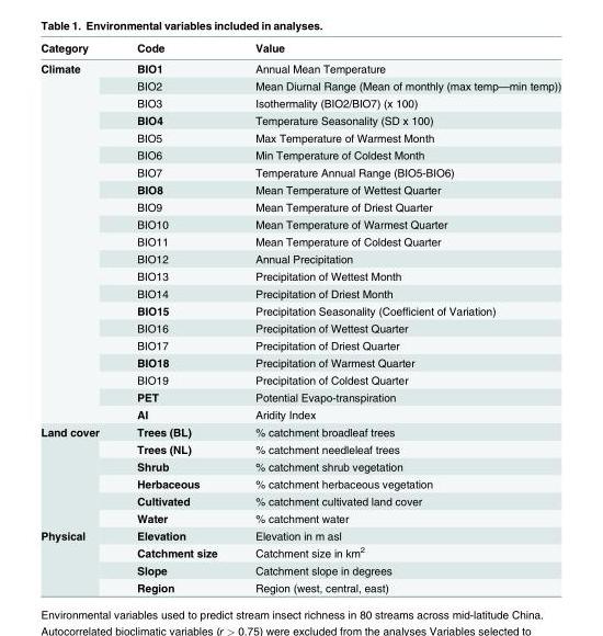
<table><thead><tr><td>Category</td><td>Code</td><td>Value</td></tr></thead><tbody><tr><td rowspan="21">Climate</td><td>BIO1</td><td>Annual Mean Temperature</td></tr><tr><td>BIO2</td><td>Mean Diurnal Range (Mean of monthly (max temp—min temp))</td></tr><tr><td>BIO3</td><td>Isothermality (BIO2/BIO7) (x 100)</td></tr><tr><td>BIO4</td><td>Temperature Seasonality (SD x 100)</td></tr><tr><td>BIO5</td><td>Max Temperature of Warmest Month</td></tr><tr><td>BIO6</td><td>Min Temperature of Coldest Month</td></tr><tr><td>BIO7</td><td>Temperature Annual Range (BIO5-BIO6)</td></tr><tr><td>BIO8</td><td>Mean Temperature of Wettest Quarter</td></tr><tr><td>BIO9</td><td>Mean Temperature of Driest Quarter</td></tr><tr><td>BIO10</td><td>Mean Temperature of Warmest Quarter</td></tr><tr><td>BIO11</td><td>Mean Temperature of Coldest Quarter</td></tr><tr><td>BIO12</td><td>Annual Precipitation</td></tr><tr><td>BIO13</td><td>Precipitation of Wettest Month</td></tr><tr><td>BIO14</td><td>Precipitation of Driest Month</td></tr><tr><td>BIO15</td><td>Precipitation Seasonality (Coefficient of Variation)</td></tr><tr><td>BIO16</td><td>Precipitation of Wettest Quarter</td></tr><tr><td>BIO17</td><td>Precipitation of Driest Quarter</td></tr><tr><td>BIO18</td><td>Precipitation of Warmest Quarter</td></tr><tr><td>BIO19</td><td>Precipitation of Coldest Quarter</td></tr><tr><td>PET</td><td>Potential Evapo-transpiration</td></tr><tr><td>AI</td><td>Aridity Index</td></tr><tr><td rowspan="6">Land cover</td><td>Trees (BL)</td><td>% catchment broadleaf trees</td></tr><tr><td>Trees (NL)</td><td>% catchment needleleaf trees</td></tr><tr><td>Shrub</td><td>% catchment shrub vegetation</td></tr><tr><td>Herbaceous</td><td>% catchment herbaceous vegetation</td></tr><tr><td>Cultivated</td><td>% catchment cultivated land cover</td></tr><tr><td>Water</td><td>% catchment water</td></tr><tr><td rowspan="4">Physical</td><td>Elevation</td><td>Elevation in m asl</td></tr><tr><td>Catchment size</td><td>Catchment size in km<sup>2</sup></td></tr><tr><td>Slope</td><td>Catchment slope in degrees</td></tr><tr><td>Region</td><td>Region (west, central, east)</td></tr></tbody></table>